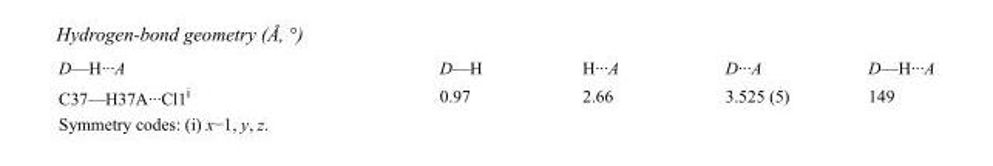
<table><tbody><tr><td>D—H···A</td><td>D—H</td><td>H···A</td><td>D···A</td><td>D—H···A</td></tr><tr><td>C37—H37A···Cl1<sup>i</sup></td><td>0.97</td><td>2.66</td><td>3.525 (5)</td><td>149</td></tr></tbody></table>